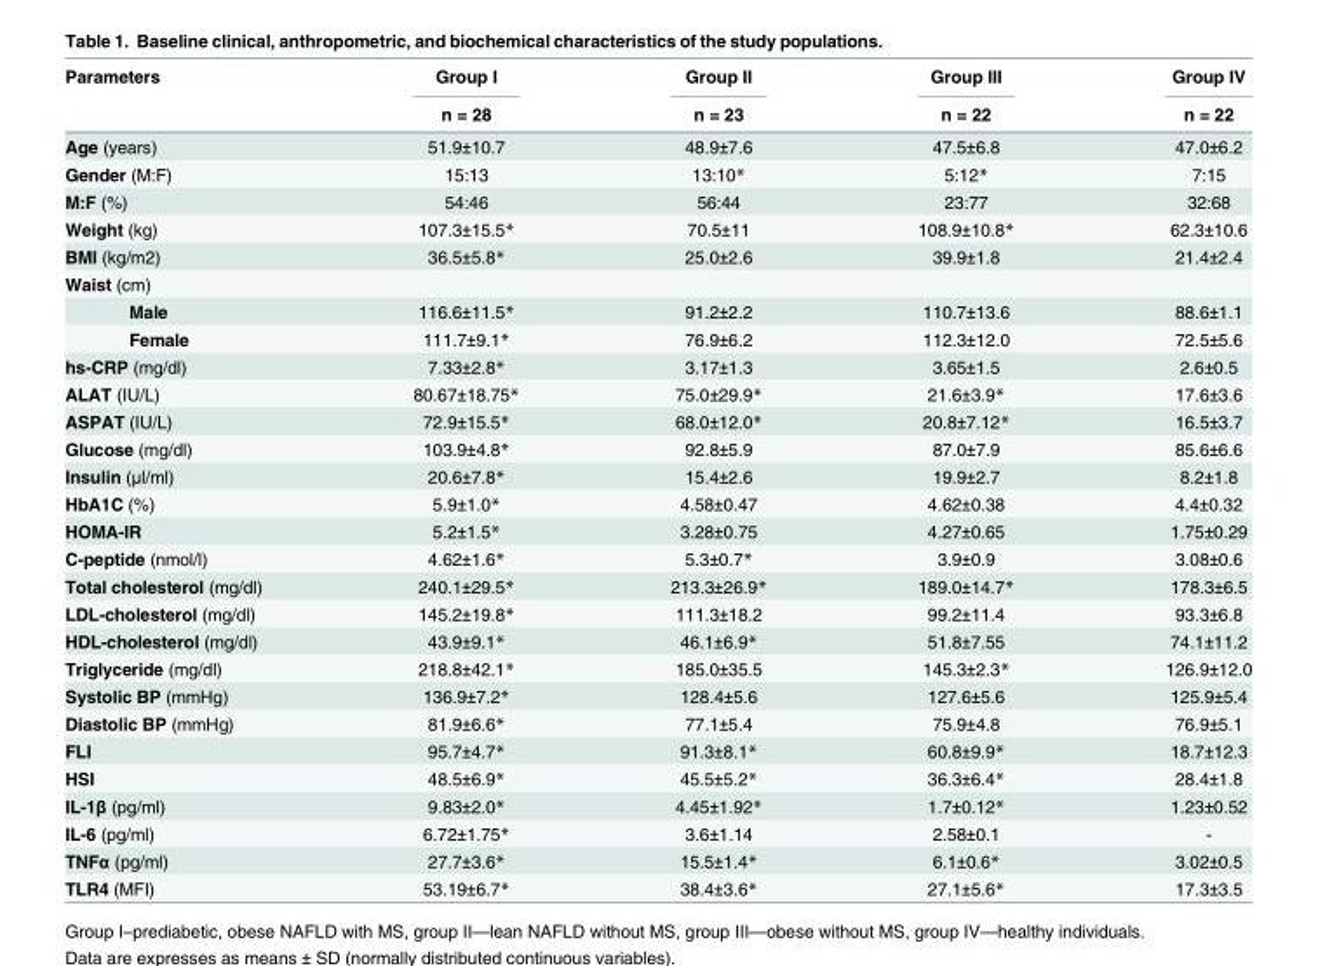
<table><thead><tr><td rowspan="2">Parameters</td><td rowspan="2">Group I n = 28</td><td rowspan="2">Group II n = 23</td><td rowspan="2">Group III n = 22</td><td rowspan="2">Group IV n = 22</td></tr><tr></tr></thead><tbody><tr><td>Age (years)</td><td>51.9±10.7</td><td>48.9±7.6</td><td>47.5±6.8</td><td>47.0±6.2</td></tr><tr><td>Gender (M:F)</td><td>15:13</td><td>13:10*</td><td>5:12*</td><td>7:15</td></tr><tr><td>M:F (%)</td><td>54:46</td><td>56:44</td><td>23:77</td><td>32:68</td></tr><tr><td>Weight (kg)</td><td>107.3±15.5*</td><td>70.5±11</td><td>108.9±10.8*</td><td>62.3±10.6</td></tr><tr><td>BMI (kg/m2)</td><td>36.5±5.8*</td><td>25.0±2.6</td><td>39.9±1.8</td><td>21.4±2.4</td></tr><tr><td colspan="5">Waist (cm)</td></tr><tr><td>Male</td><td>116.6±11.5*</td><td>91.2±2.2</td><td>110.7±13.6</td><td>88.6±1.1</td></tr><tr><td>Female</td><td>111.7±9.1*</td><td>76.9±6.2</td><td>112.3±12.0</td><td>72.5±5.6</td></tr><tr><td>hs-CRP (mg/dl)</td><td>7.33±2.8*</td><td>3.17±1.3</td><td>3.65±1.5</td><td>2.6±0.5</td></tr><tr><td>ALAT (IU/L)</td><td>80.67±18.75*</td><td>75.0±29.9*</td><td>21.6±3.9*</td><td>17.6±3.6</td></tr><tr><td>ASPAT (IU/L)</td><td>72.9±15.5*</td><td>68.0±12.0*</td><td>20.8±7.12*</td><td>16.5±3.7</td></tr><tr><td>Glucose (mg/dl)</td><td>103.9±4.8*</td><td>92.8±5.9</td><td>87.0±7.9</td><td>85.6±6.6</td></tr><tr><td>Insulin (μl/ml)</td><td>20.6±7.8*</td><td>15.4±2.6</td><td>19.9±2.7</td><td>8.2±1.8</td></tr><tr><td>HbA1C (%)</td><td>5.9±1.0*</td><td>4.58±0.47</td><td>4.62±0.38</td><td>4.4±0.32</td></tr><tr><td>HOMA-IR</td><td>5.2±1.5*</td><td>3.28±0.75</td><td>4.27±0.65</td><td>1.75±0.29</td></tr><tr><td>C-peptide (nmol/l)</td><td>4.62±1.6*</td><td>5.3±0.7*</td><td>3.9±0.9</td><td>3.08±0.6</td></tr><tr><td>Total cholesterol (mg/dl)</td><td>240.1±29.5*</td><td>213.3±26.9*</td><td>189.0±14.7*</td><td>178.3±6.5</td></tr><tr><td>LDL-cholesterol (mg/dl)</td><td>145.2±19.8*</td><td>111.3±18.2</td><td>99.2±11.4</td><td>93.3±6.8</td></tr><tr><td>HDL-cholesterol (mg/dl)</td><td>43.9±9.1*</td><td>46.1±6.9*</td><td>51.8±7.55</td><td>74.1±11.2</td></tr><tr><td>Triglyceride (mg/dl)</td><td>218.8±42.1*</td><td>185.0±35.5</td><td>145.3±2.3*</td><td>126.9±12.0</td></tr><tr><td>Systolic BP (mmHg)</td><td>136.9±7.2*</td><td>128.4±5.6</td><td>127.6±5.6</td><td>125.9±5.4</td></tr><tr><td>Diastolic BP (mmHg)</td><td>81.9±6.6*</td><td>77.1±5.4</td><td>75.9±4.8</td><td>76.9±5.1</td></tr><tr><td>FLI</td><td>95.7±4.7*</td><td>91.3±8.1*</td><td>60.8±9.9*</td><td>18.7±12.3</td></tr><tr><td>HSI</td><td>48.5±6.9*</td><td>45.5±5.2*</td><td>36.3±6.4*</td><td>28.4±1.8</td></tr><tr><td>IL-1β (pg/ml)</td><td>9.83±2.0*</td><td>4.45±1.92*</td><td>1.7±0.12*</td><td>1.23±0.52</td></tr><tr><td>IL-6 (pg/ml)</td><td>6.72±1.75*</td><td>3.6±1.14</td><td>2.58±0.1</td><td>-</td></tr><tr><td>TNFα (pg/ml)</td><td>27.7±3.6*</td><td>15.5±1.4*</td><td>6.1±0.6*</td><td>3.02±0.5</td></tr><tr><td>TLR4 (MFI)</td><td>53.19±6.7*</td><td>38.4±3.6*</td><td>27.1±5.6*</td><td>17.3±3.5</td></tr></tbody></table>